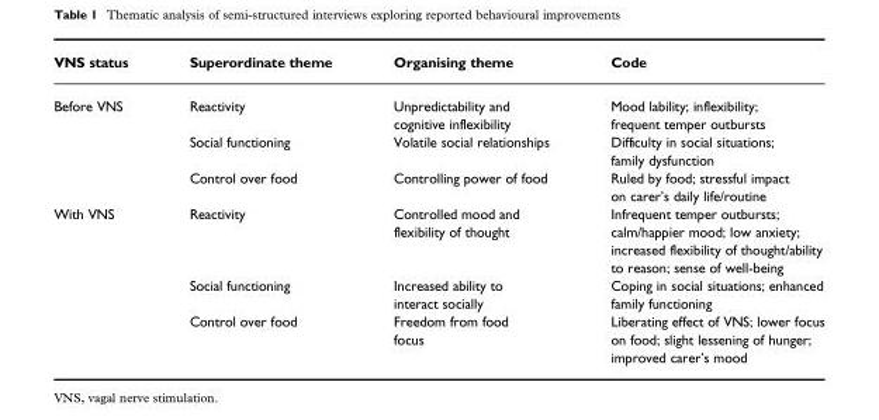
<table><thead><tr><td>VNS status</td><td>Superordinate theme</td><td>Organising theme</td><td>Code</td></tr></thead><tbody><tr><td rowspan="3">Before VNS</td><td>Reactivity</td><td>Unpredictability and cognitive inflexibility</td><td>Mood lability; inflexibility; frequent temper outbursts</td></tr><tr><td>Social functioning</td><td>Volatile social relationships</td><td>Difficulty in social situations; family dysfunction</td></tr><tr><td>Control over food</td><td>Controlling power of food</td><td>Ruled by food; stressful impact on carer’s daily life/routine</td></tr><tr><td rowspan="3">With VNS</td><td>Reactivity</td><td>Controlled mood and flexibility of thought</td><td>Infrequent temper outbursts; calm/happier mood; low anxiety; increased flexibility of thought/ability to reason; sense of well-being</td></tr><tr><td>Social functioning</td><td>Increased ability to interact socially</td><td>Coping in social situations; enhanced family functioning</td></tr><tr><td>Control over food</td><td>Freedom from food focus</td><td>Liberating effect of VNS; lower focus on food; slight lessening of hunger; improved carer’s mood</td></tr></tbody></table>